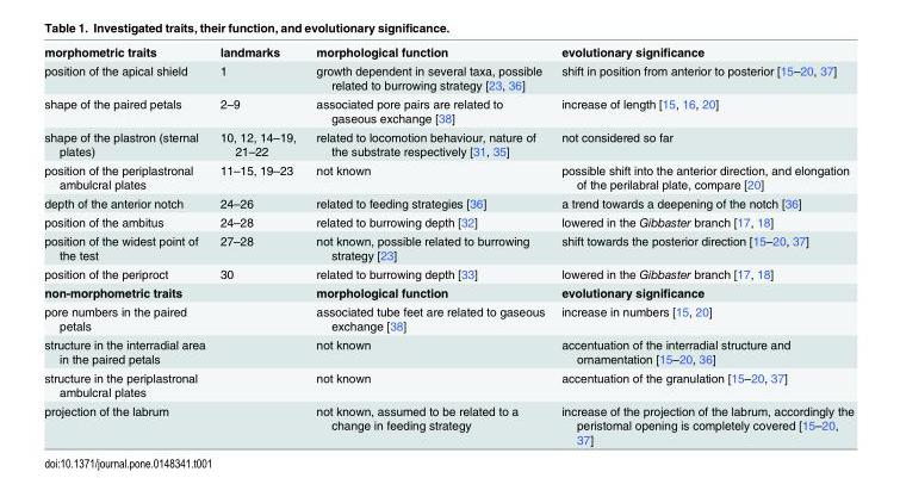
<table><tbody><tr><td>morphometric traits</td><td>landmarks</td><td>morphological function</td><td>evolutionary significance</td></tr><tr><td>position of the apical shield</td><td>1</td><td>growth dependent in several taxa, possible related to burrowing strategy [23, 36]</td><td>shift in position from anterior to posterior [15–20, 37]</td></tr><tr><td>shape of the paired petals</td><td>2–9</td><td>associated pore pairs are related to gaseous exchange [38]</td><td>increase of length [15, 16, 20]</td></tr><tr><td>shape of the plastron (sternal plates)</td><td>10, 12, 14–19, 21–22</td><td>related to locomotion behaviour, nature of the substrate respectively [31, 35]</td><td>not considered so far</td></tr><tr><td>position of the periplastronal ambulcral plates</td><td>11–15, 19–23</td><td>not known</td><td>possible shift into the anterior direction, and elongation of the perilabral plate, compare [20]</td></tr><tr><td>depth of the anterior notch</td><td>24–26</td><td>related to feeding strategies [36]</td><td>a trend towards a deepening of the notch [36]</td></tr><tr><td>position of the ambitus</td><td>24–28</td><td>related to burrowing depth [32]</td><td>lowered in the Gibbaster branch [17, 18]</td></tr><tr><td>position of the widest point of the test</td><td>27–28</td><td>not known, possible related to burrowing strategy [23]</td><td>shift towards the posterior direction [15–20, 37]</td></tr><tr><td>position of the periproct</td><td>30</td><td>related to burrowing depth [33]</td><td>lowered in the Gibbaster branch [17, 18]</td></tr><tr><td>non-morphometric traits</td><td></td><td>morphological function</td><td>evolutionary significance</td></tr><tr><td>pore numbers in the paired petals</td><td></td><td>associated tube feet are related to gaseous exchange [38]</td><td>increase in numbers [15, 20]</td></tr><tr><td>structure in the interradial area in the paired petals</td><td></td><td>not known</td><td>accentuation of the interradial structure and ornamentation [15–20, 36]</td></tr><tr><td>structure in the periplastronal ambulcral plates</td><td></td><td>not known</td><td>accentuation of the granulation [15–20, 37]</td></tr><tr><td>projection of the labrum</td><td></td><td>not known, assumed to be related to a change in feeding strategy</td><td>increase of the projection of the labrum, accordingly the peristomal opening is completely covered [15–20,</td></tr></tbody></table>